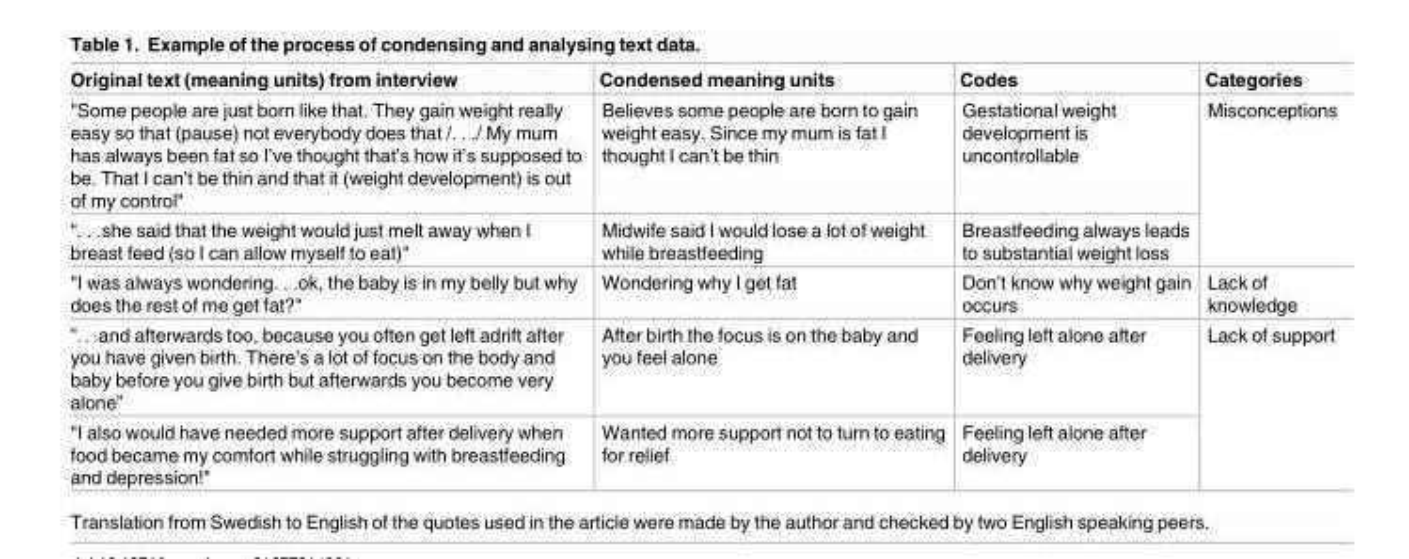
<table><thead><tr><td>Original text (meaning units) from interview</td><td>Condensed meaning units</td><td>Codes</td><td>Categories</td></tr></thead><tbody><tr><td>&quot;Some people are just born like that. They gain weight really easy so that (pause) not everybody does that /. . ./ My mum has always been fat so I’ve thought that’s how it’s supposed to be. That I can’t be thin and that it (weight development) is out of my control&quot;</td><td>Believes some people are born to gain weight easy. Since my mum is fat I thought I can’t be thin</td><td>Gestational weight development is uncontrollable</td><td rowspan="2">Misconceptions</td></tr><tr><td>“. . .she said that the weight would just melt away when I breast feed (so I can allow myself to eat)&quot;</td><td>Midwife said I would lose a lot of weight while breastfeeding</td><td>Breastfeeding always leads to substantial weight loss</td></tr><tr><td>&quot;I was always wondering. . .ok, the baby is in my belly but why does the rest of me get fat?&quot;</td><td>Wondering why I get fat</td><td>Don’t know why weight gain occurs</td><td>Lack of knowledge</td></tr><tr><td>”. . .and afterwards too, because you often get left adrift after you have given birth. There’s a lot of focus on the body and baby before you give birth but afterwards you become very alone”</td><td>After birth the focus is on the baby and you feel alone</td><td>Feeling left alone after delivery</td><td rowspan="2">Lack of support</td></tr><tr><td>&quot;I also would have needed more support after delivery when food became my comfort while struggling with breastfeeding and depression!&quot;</td><td>Wanted more support not to turn to eating for relief</td><td>Feeling left alone after delivery</td></tr></tbody></table>